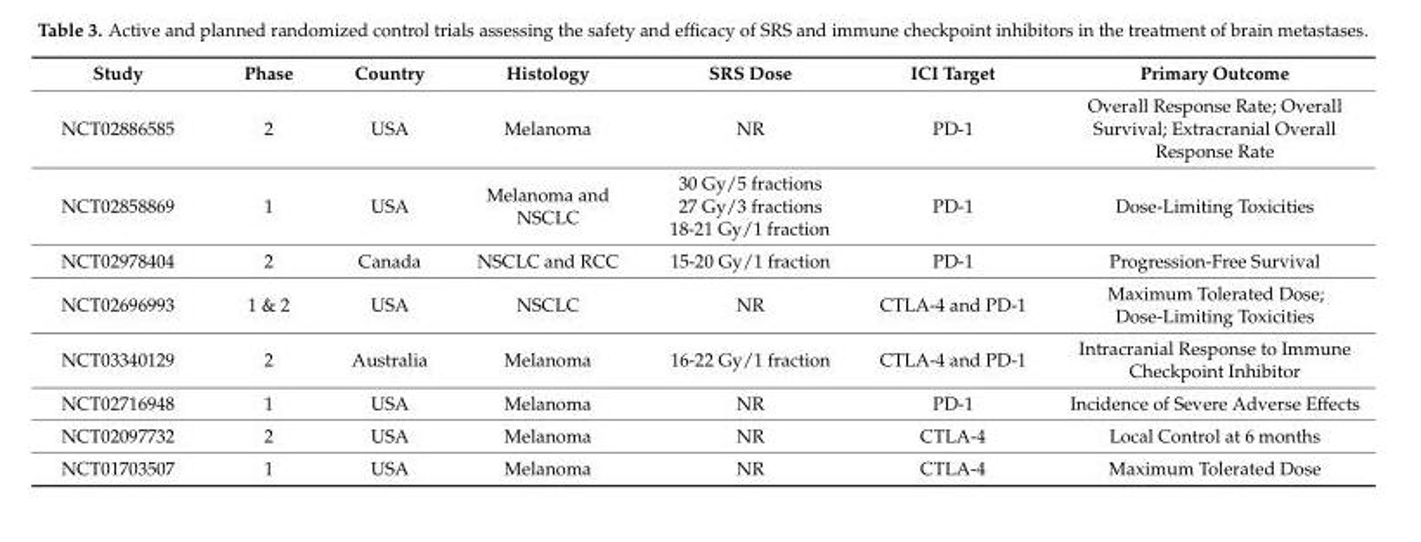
<table><thead><tr><td>Study</td><td>Phase</td><td>Country</td><td>Histology</td><td>SRS Dose</td><td>ICI Target</td><td>Primary Outcome</td></tr></thead><tbody><tr><td>NCT02886585</td><td>2</td><td>USA</td><td>Melanoma</td><td>NR</td><td>PD-1</td><td>Overall Response Rate; Overall Survival; Extracranial Overall Response Rate</td></tr><tr><td>NCT02858869</td><td>1</td><td>USA</td><td>Melanoma and NSCLC</td><td>30 Gy/5 fractions 27 Gy/3 fractions 18-21 Gy/1 fraction</td><td>PD-1</td><td>Dose-Limiting Toxicities</td></tr><tr><td>NCT02978404</td><td>2</td><td>Canada</td><td>NSCLC and RCC</td><td>15-20 Gy/1 fraction</td><td>PD-1</td><td>Progression-Free Survival</td></tr><tr><td>NCT02696993</td><td>1 &amp; 2</td><td>USA</td><td>NSCLC</td><td>NR</td><td>CTLA-4 and PD-1</td><td>Maximum Tolerated Dose; Dose-Limiting Toxicities</td></tr><tr><td>NCT03340129</td><td>2</td><td>Australia</td><td>Melanoma</td><td>16-22 Gy/1 fraction</td><td>CTLA-4 and PD-1</td><td>Intracranial Response to Immune Checkpoint Inhibitor</td></tr><tr><td>NCT02716948</td><td>1</td><td>USA</td><td>Melanoma</td><td>NR</td><td>PD-1</td><td>Incidence of Severe Adverse Effects</td></tr><tr><td>NCT02097732</td><td>2</td><td>USA</td><td>Melanoma</td><td>NR</td><td>CTLA-4</td><td>Local Control at 6 months</td></tr><tr><td>NCT01703507</td><td>1</td><td>USA</td><td>Melanoma</td><td>NR</td><td>CTLA-4</td><td>Maximum Tolerated Dose</td></tr></tbody></table>